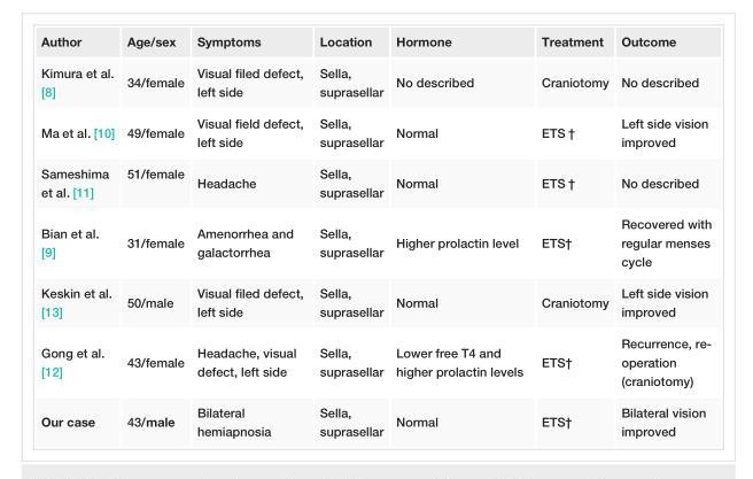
<table><tbody><tr><td>Author</td><td>Age/sex</td><td>Symptoms</td><td>Location</td><td>Hormone</td><td>Treatment</td><td>Outcome</td></tr><tr><td>Kimura et al. [8]</td><td>34/female</td><td>Visual filed defect, left side</td><td>Sella, suprasellar</td><td>No described</td><td>Craniotomy</td><td>No described</td></tr><tr><td>Ma et al. [10]</td><td>49/female</td><td>Visual field defect, left side</td><td>Sella, suprasellar</td><td>Normal</td><td>ETS †</td><td>Left side vision improved</td></tr><tr><td>Sameshima et al. [11]</td><td>51/female</td><td>Headache</td><td>Sella, suprasellar</td><td>Normal</td><td>ETS †</td><td>No described</td></tr><tr><td>Bian et al. [9]</td><td>31/female</td><td>Amenorrhea and galactorrhea</td><td>Sella, suprasellar</td><td>Higher prolactin level</td><td>ETS†</td><td>Recovered with regular menses cycle</td></tr><tr><td>Keskin et al. [13]</td><td>50/male</td><td>Visual filed defect, left side</td><td>Sella, suprasellar</td><td>Normal</td><td>Craniotomy</td><td>Left side vision improved</td></tr><tr><td>Gong et al. [12]</td><td>43/female</td><td>Headache, visual defect, left side</td><td>Sella, suprasellar</td><td>Lower free T4 and higher prolactin levels</td><td>ETS†</td><td>Recurrence, re- operation (craniotomy)</td></tr><tr><td>Our case</td><td>43/male</td><td>Bilateral hemiapnosia</td><td>Sella, suprasellar</td><td>Normal</td><td>ETS†</td><td>Bilateral vision improved</td></tr></tbody></table>